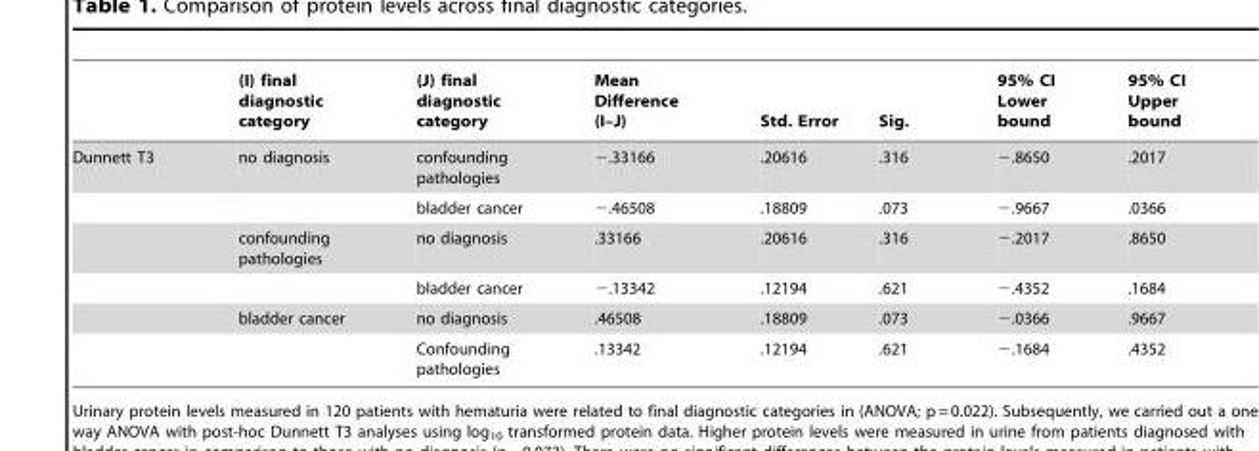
<table><thead><tr><td></td><td>(I) final diagnostic category</td><td>(J) final diagnostic category</td><td>Mean Difference (I–J)</td><td>Std. Error</td><td>Sig.</td><td>95% CI Lower bound</td><td>95% CI Upper bound</td></tr></thead><tbody><tr><td rowspan="6">Dunnett T3</td><td>no diagnosis</td><td>confounding pathologies</td><td>−.33166</td><td>.20616</td><td>.316</td><td>−.8650</td><td>.2017</td></tr><tr><td></td><td>bladder cancer</td><td>−.46508</td><td>.18809</td><td>.073</td><td>−.9667</td><td>.0366</td></tr><tr><td>confounding pathologies</td><td>no diagnosis</td><td>.33166</td><td>.20616</td><td>.316</td><td>−.2017</td><td>.8650</td></tr><tr><td></td><td>bladder cancer</td><td>−.13342</td><td>.12194</td><td>.621</td><td>−.4352</td><td>.1684</td></tr><tr><td>bladder cancer</td><td>no diagnosis</td><td>.46508</td><td>.18809</td><td>.073</td><td>−.0366</td><td>.9667</td></tr><tr><td></td><td>Confounding pathologies</td><td>.13342</td><td>.12194</td><td>.621</td><td>−.1684</td><td>.4352</td></tr></tbody></table>